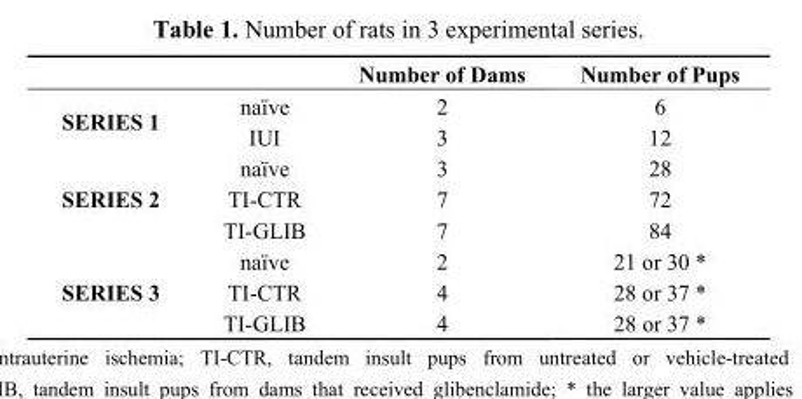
<table><thead><tr><td></td><td></td><td>Number of Dams</td><td>Number of Pups</td></tr></thead><tbody><tr><td rowspan="2">SERIES 1</td><td>naïve</td><td>2</td><td>6</td></tr><tr><td>IUI</td><td>3</td><td>12</td></tr><tr><td rowspan="3">SERIES 2</td><td>naïve</td><td>3</td><td>28</td></tr><tr><td>TI-CTR</td><td>7</td><td>72</td></tr><tr><td>TI-GLIB</td><td>7</td><td>84</td></tr><tr><td rowspan="3">SERIES 3</td><td>naïve</td><td>2</td><td>21 or 30 *</td></tr><tr><td>TI-CTR</td><td>4</td><td>28 or 37 *</td></tr><tr><td>TI-GLIB</td><td>4</td><td>28 or 37 *</td></tr></tbody></table>